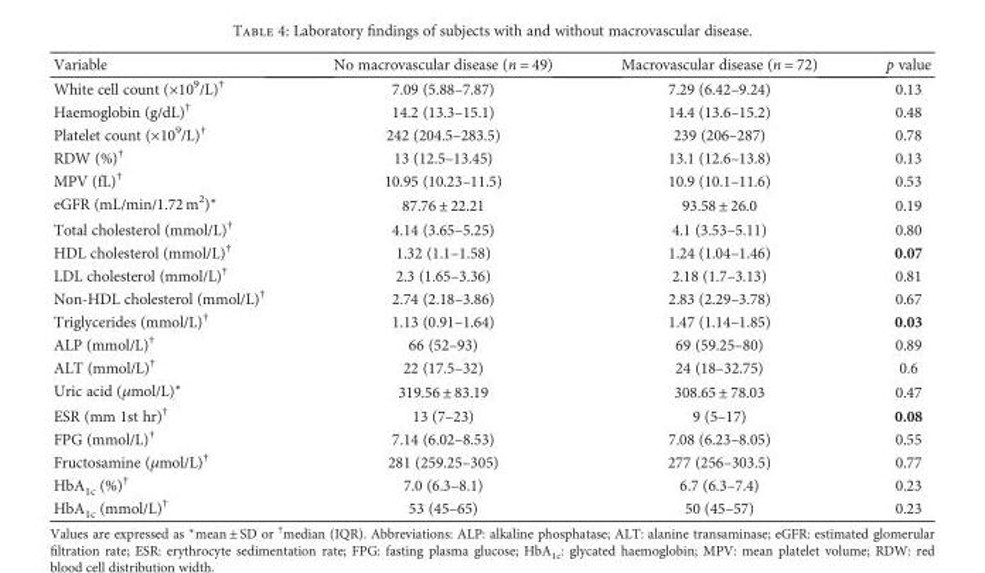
<table><thead><tr><td>Variable</td><td>No macrovascular disease (n = 49)</td><td>Macrovascular disease (n = 72)</td><td>p value</td></tr></thead><tbody><tr><td>White cell count (×10<sup>9</sup>/L)<sup>†</sup></td><td>7.09 (5.88–7.87)</td><td>7.29 (6.42–9.24)</td><td>0.13</td></tr><tr><td>Haemoglobin (g/dL)<sup>†</sup></td><td>14.2 (13.3–15.1)</td><td>14.4 (13.6–15.2)</td><td>0.48</td></tr><tr><td>Platelet count (×10<sup>9</sup>/L)<sup>†</sup></td><td>242 (204.5–283.5)</td><td>239 (206–287)</td><td>0.78</td></tr><tr><td>RDW (%)<sup>†</sup></td><td>13 (12.5–13.45)</td><td>13.1 (12.6–13.8)</td><td>0.13</td></tr><tr><td>MPV (fL)<sup>†</sup></td><td>10.95 (10.23–11.5)</td><td>10.9 (10.1–11.6)</td><td>0.53</td></tr><tr><td>eGFR (mL/min/1.72 m<sup>2</sup>)∗</td><td>87.76 ± 22.21</td><td>93.58 ± 26.0</td><td>0.19</td></tr><tr><td>Total cholesterol (mmol/L)<sup>†</sup></td><td>4.14 (3.65–5.25)</td><td>4.1 (3.53–5.11)</td><td>0.80</td></tr><tr><td>HDL cholesterol (mmol/L)<sup>†</sup></td><td>1.32 (1.1–1.58)</td><td>1.24 (1.04–1.46)</td><td>0.07</td></tr><tr><td>LDL cholesterol (mmol/L)<sup>†</sup></td><td>2.3 (1.65–3.36)</td><td>2.18 (1.7–3.13)</td><td>0.81</td></tr><tr><td>Non-HDL cholesterol (mmol/L)<sup>†</sup></td><td>2.74 (2.18–3.86)</td><td>2.83 (2.29–3.78)</td><td>0.67</td></tr><tr><td>Triglycerides (mmol/L)<sup>†</sup></td><td>1.13 (0.91–1.64)</td><td>1.47 (1.14–1.85)</td><td>0.03</td></tr><tr><td>ALP (mmol/L)<sup>†</sup></td><td>66 (52–93)</td><td>69 (59.25–80)</td><td>0.89</td></tr><tr><td>ALT (mmol/L)<sup>†</sup></td><td>22 (17.5–32)</td><td>24 (18–32.75)</td><td>0.6</td></tr><tr><td>Uric acid (μmol/L)∗</td><td>319.56 ± 83.19</td><td>308.65 ± 78.03</td><td>0.47</td></tr><tr><td>ESR (mm 1st hr)<sup>†</sup></td><td>13 (7–23)</td><td>9 (5–17)</td><td>0.08</td></tr><tr><td>FPG (mmol/L)<sup>†</sup></td><td>7.14 (6.02–8.53)</td><td>7.08 (6.23–8.05)</td><td>0.55</td></tr><tr><td>Fructosamine (μmol/L)<sup>†</sup></td><td>281 (259.25–305)</td><td>277 (256–303.5)</td><td>0.77</td></tr><tr><td>HbA<sub>1c</sub> (%)<sup>†</sup></td><td>7.0 (6.3–8.1)</td><td>6.7 (6.3–7.4)</td><td>0.23</td></tr><tr><td>HbA<sub>1c</sub> (mmol/L)<sup>†</sup></td><td>53 (45–65)</td><td>50 (45–57)</td><td>0.23</td></tr></tbody></table>